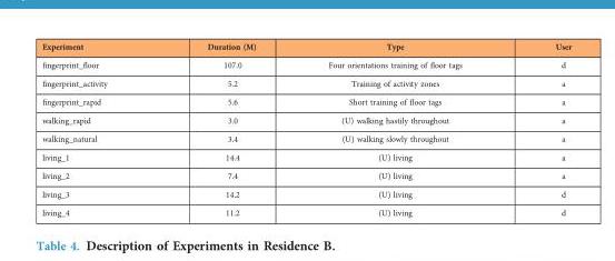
<table><thead><tr><td>Experiment</td><td>Duration (M)</td><td>Type</td><td>User</td></tr></thead><tbody><tr><td>fingerprint_floor</td><td>107.0</td><td>Four orientations training of floor tags</td><td>d</td></tr><tr><td>fingerprint_activity</td><td>5.2</td><td>Training of activity zones</td><td>a</td></tr><tr><td>fingerprint_rapid</td><td>5.6</td><td>Short training of floor tags</td><td>a</td></tr><tr><td>walking_rapid</td><td>3.0</td><td>(U) walking hastily throughout</td><td>a</td></tr><tr><td>walking_natural</td><td>3.4</td><td>(U) walking slowly throughout</td><td>a</td></tr><tr><td>living_1</td><td>14.4</td><td>(U) living</td><td>a</td></tr><tr><td>living_2</td><td>7.4</td><td>(U) living</td><td>a</td></tr><tr><td>living_3</td><td>14.2</td><td>(U) living</td><td>d</td></tr><tr><td>living_4</td><td>11.2</td><td>(U) living</td><td>d</td></tr></tbody></table>